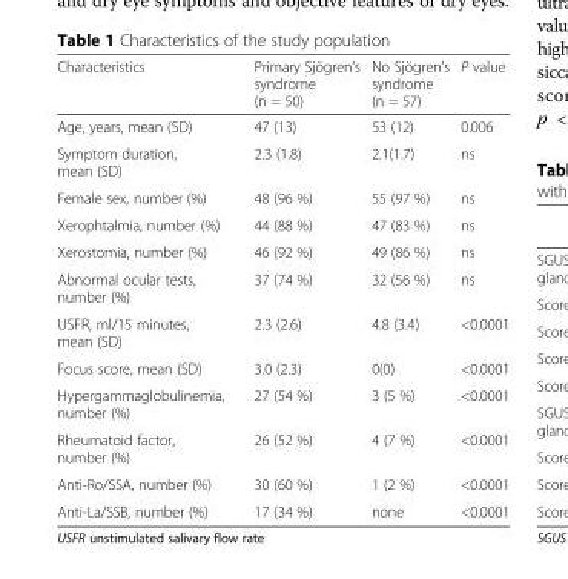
<table><thead><tr><td>Characteristics</td><td>Primary Sjögren’s syndrome (n = 50)</td><td>No Sjögren’s syndrome (n = 57)</td><td>P value</td></tr></thead><tbody><tr><td>Age, years, mean (SD)</td><td>47 (13)</td><td>53 (12)</td><td>0.006</td></tr><tr><td>Symptom duration, mean (SD)</td><td>2.3 (1.8)</td><td>2.1(1.7)</td><td>ns</td></tr><tr><td>Female sex, number (%)</td><td>48 (96 %)</td><td>55 (97 %)</td><td>ns</td></tr><tr><td>Xerophtalmia, number (%)</td><td>44 (88 %)</td><td>47 (83 %)</td><td>ns</td></tr><tr><td>Xerostomia, number (%)</td><td>46 (92 %)</td><td>49 (86 %)</td><td>ns</td></tr><tr><td>Abnormal ocular tests, number (%)</td><td>37 (74 %)</td><td>32 (56 %)</td><td>ns</td></tr><tr><td>USFR, ml/15 minutes, mean (SD)</td><td>2.3 (2.6)</td><td>4.8 (3.4)</td><td>&lt;0.0001</td></tr><tr><td>Focus score, mean (SD)</td><td>3.0 (2.3)</td><td>0(0)</td><td>&lt;0.0001</td></tr><tr><td>Hypergammaglobulinemia, number (%)</td><td>27 (54 %)</td><td>3 (5 %)</td><td>&lt;0.0001</td></tr><tr><td>Rheumatoid factor, number (%)</td><td>26 (52 %)</td><td>4 (7 %)</td><td>&lt;0.0001</td></tr><tr><td>Anti-Ro/SSA, number (%)</td><td>30 (60 %)</td><td>1 (2 %)</td><td>&lt;0.0001</td></tr><tr><td>Anti-La/SSB, number (%)</td><td>17 (34 %)</td><td>none</td><td>&lt;0.0001</td></tr></tbody></table>